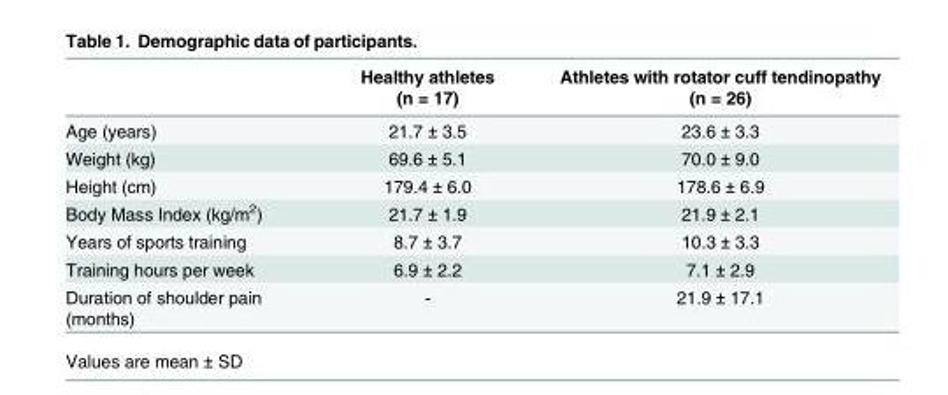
<table><thead><tr><td></td><td>Healthy athletes (n = 17)</td><td>Athletes with rotator cuff tendinopathy (n = 26)</td></tr></thead><tbody><tr><td>Age (years)</td><td>21.7 ± 3.5</td><td>23.6 ± 3.3</td></tr><tr><td>Weight (kg)</td><td>69.6 ± 5.1</td><td>70.0 ± 9.0</td></tr><tr><td>Height (cm)</td><td>179.4 ± 6.0</td><td>178.6 ± 6.9</td></tr><tr><td>Body Mass Index (kg/m<sup>2</sup>)</td><td>21.7 ± 1.9</td><td>21.9 ± 2.1</td></tr><tr><td>Years of sports training</td><td>8.7 ± 3.7</td><td>10.3 ± 3.3</td></tr><tr><td>Training hours per week</td><td>6.9 ± 2.2</td><td>7.1 ± 2.9</td></tr><tr><td>Duration of shoulder pain (months)</td><td>-</td><td>21.9 ± 17.1</td></tr></tbody></table>